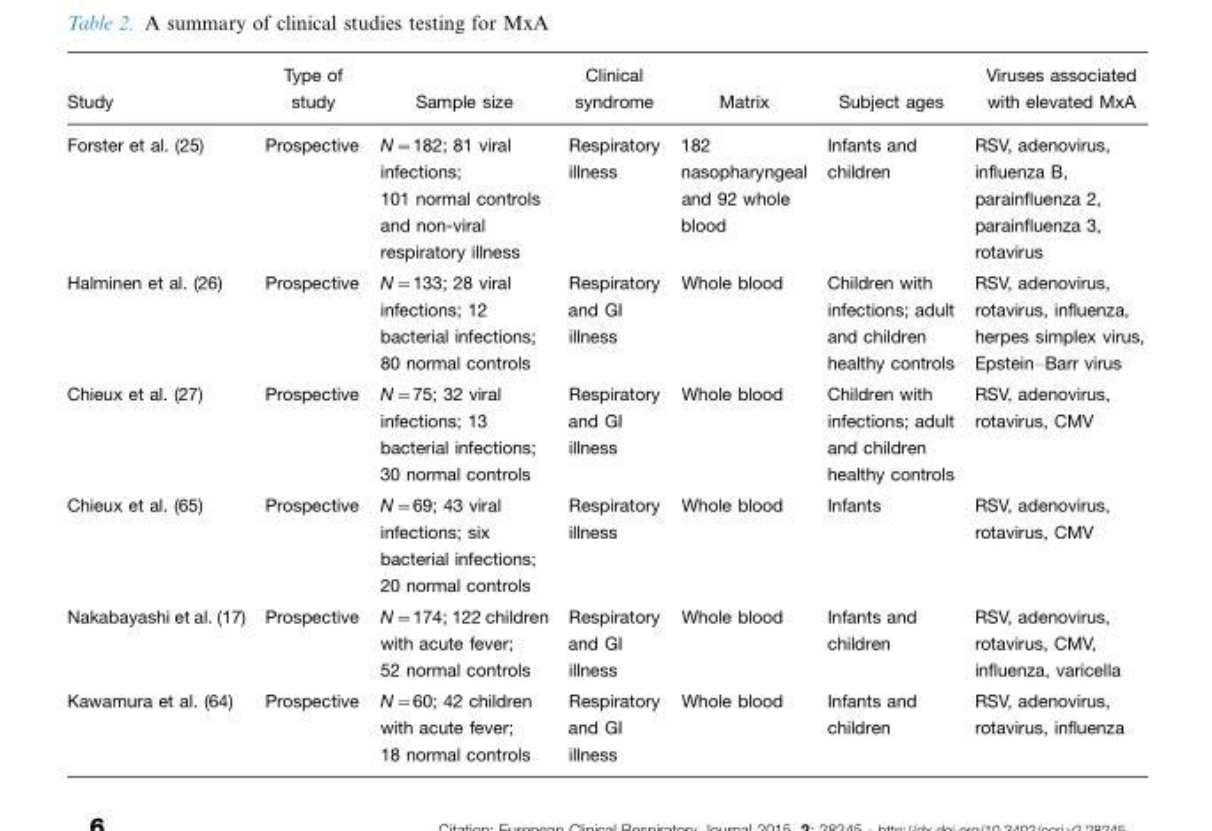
<table><thead><tr><td>Study</td><td>Type of study</td><td>Sample size</td><td>Clinical syndrome</td><td>Matrix</td><td>Subject ages</td><td>Viruses associated with elevated MxA</td></tr></thead><tbody><tr><td>Forster et al. (25)</td><td>Prospective</td><td>N=182; 81 viral infections; 101 normal controls and non-viral respiratory illness</td><td>Respiratory illness</td><td>182 nasopharyngeal and 92 whole blood</td><td>Infants and children</td><td>RSV, adenovirus, influenza B, parainfluenza 2, parainfluenza 3, rotavirus</td></tr><tr><td>Halminen et al. (26)</td><td>Prospective</td><td>N=133; 28 viral infections; 12 bacterial infections; 80 normal controls</td><td>Respiratory and GI illness</td><td>Whole blood</td><td>Children with infections; adult and children healthy controls</td><td>RSV, adenovirus, rotavirus, influenza, herpes simplex virus, Epstein–Barr virus</td></tr><tr><td>Chieux et al. (27)</td><td>Prospective</td><td>N=75; 32 viral infections; 13 bacterial infections; 30 normal controls</td><td>Respiratory and GI illness</td><td>Whole blood</td><td>Children with infections; adult and children healthy controls</td><td>RSV, adenovirus, rotavirus, CMV</td></tr><tr><td>Chieux et al. (65)</td><td>Prospective</td><td>N=69; 43 viral infections; six bacterial infections; 20 normal controls</td><td>Respiratory illness</td><td>Whole blood</td><td>Infants</td><td>RSV, adenovirus, rotavirus, CMV</td></tr><tr><td>Nakabayashi et al. (17)</td><td>Prospective</td><td>N=174; 122 children with acute fever; 52 normal controls</td><td>Respiratory and GI illness</td><td>Whole blood</td><td>Infants and children</td><td>RSV, adenovirus, rotavirus, CMV, influenza, varicella</td></tr><tr><td>Kawamura et al. (64)</td><td>Prospective</td><td>N=60; 42 children with acute fever; 18 normal controls</td><td>Respiratory and GI illness</td><td>Whole blood</td><td>Infants and children</td><td>RSV, adenovirus, rotavirus, influenza</td></tr></tbody></table>